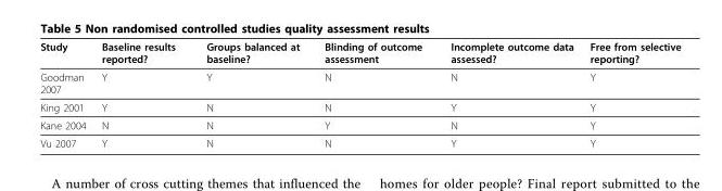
<table><thead><tr><td>Study</td><td>Baseline results reported?</td><td>Groups balanced at baseline?</td><td>Blinding of outcome assessment</td><td>Incomplete outcome data assessed?</td><td>Free from selective reporting?</td></tr></thead><tbody><tr><td>Goodman 2007</td><td>Y</td><td>Y</td><td>N</td><td>N</td><td>Y</td></tr><tr><td>King 2001</td><td>Y</td><td>N</td><td>N</td><td>Y</td><td>Y</td></tr><tr><td>Kane 2004</td><td>N</td><td>N</td><td>Y</td><td>N</td><td>Y</td></tr><tr><td>Vu 2007</td><td>Y</td><td>N</td><td>N</td><td>Y</td><td>Y</td></tr></tbody></table>